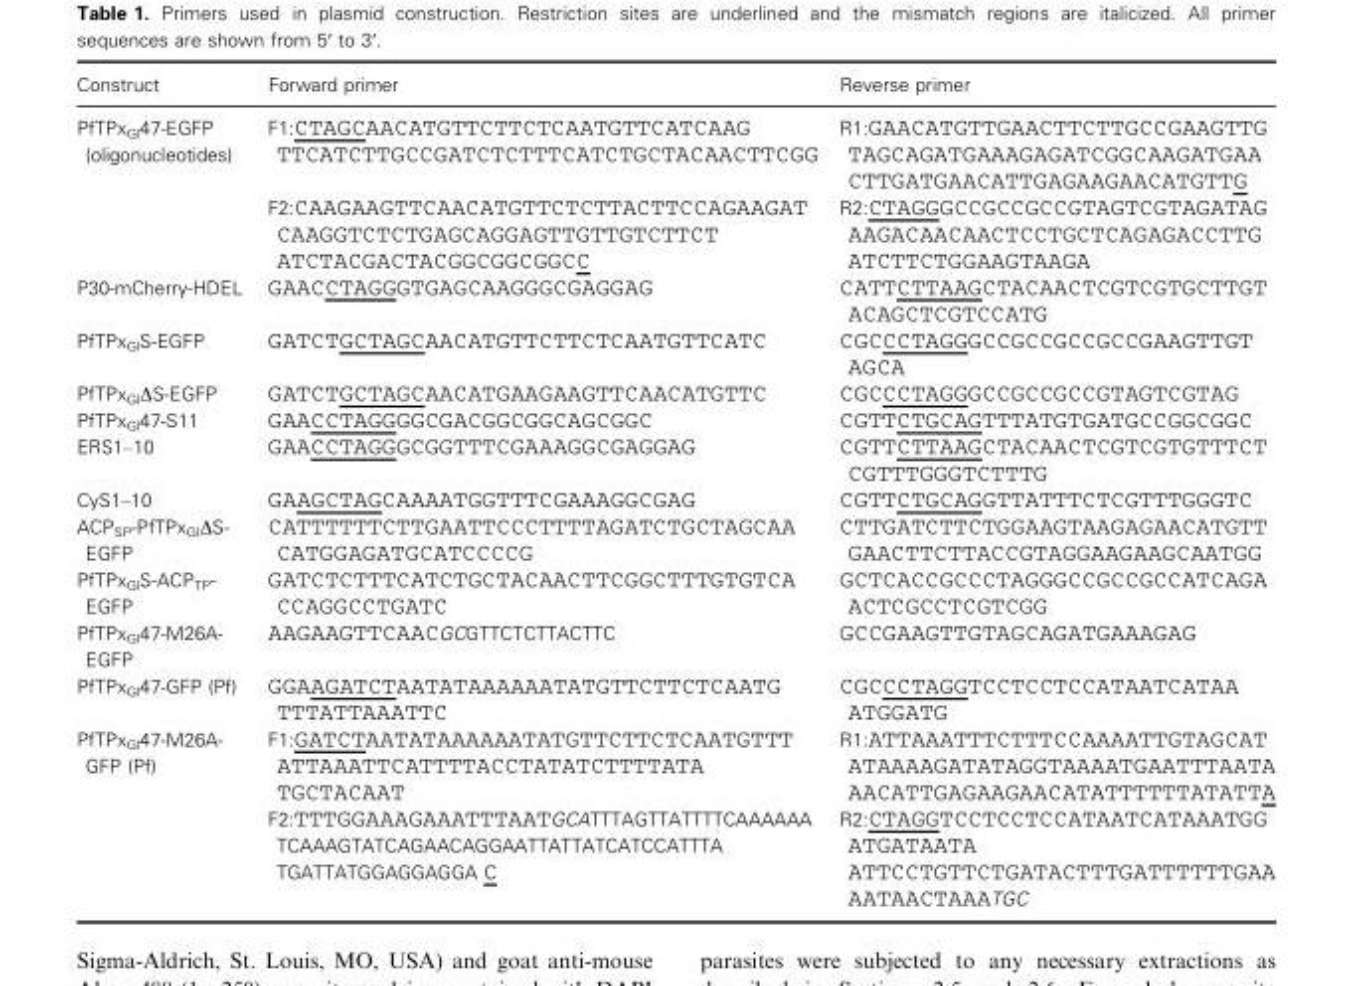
<table><thead><tr><td>Construct</td><td>Forward primer</td><td>Reverse primer</td></tr></thead><tbody><tr><td rowspan="2">PfTPx<sub>Gl</sub>47-EGFP (oligonucleotides)</td><td>F1:CTAGCAACATGTTCTTCTCAATGTTCATCAAG TTCATCTTGCCGATCTCTTTCATCTGCTACAACTTCGG</td><td>R1:GAACATGTTGAACTTCTTGCCGAAGTTG TAGCAGATGAAAGAGATCGGCAAGATGAA CTTGATGAACATTGAGAAGAACATGTTG</td></tr><tr><td>F2:CAAGAAGTTCAACATGTTCTCTTACTTCCAGAAGAT CAAGGTCTCTGAGCAGGAGTTGTTGTCTTCT ATCTACGACTACGGCGGCGGCC</td><td>R2:CTAGGGCCGCCGCCGTAGTCGTAGATAG AAGACAACAACTCCTGCTCAGAGACCTTG ATCTTCTGGAAGTAAGA</td></tr><tr><td>P30-mCherry-HDEL</td><td>GAACCTAGGGTGAGCAAGGGCGAGGAG</td><td>CATTCTTAAGCTACAACTCGTCGTGCTTGT ACAGCTCGTCCATG</td></tr><tr><td>PfTPx<sub>Gl</sub>S-EGFP</td><td>GATCTGCTAGCAACATGTTCTTCTCAATGTTCATC</td><td>CGCCCTAGGGCCGCCGCCGCCGAAGTTGT AGCA</td></tr><tr><td>PfTPx<sub>Gl</sub>ΔS-EGFP</td><td>GATCTGCTAGCAACATGAAGAAGTTCAACATGTTC</td><td>CGCCCTAGGGCCGCCGCCGTAGTCGTAG</td></tr><tr><td>PfTPx<sub>Gl</sub>47-S11</td><td>GAACCTAGGGGCGACGGCGGCAGCGGC</td><td>CGTTCTGCAGTTTATGTGATGCCGGCGGC</td></tr><tr><td>ERS1–10</td><td>GAACCTAGGGCGGTTTCGAAAGGCGAGGAG</td><td>CGTTCTTAAGCTACAACTCGTCGTGTTTCT CGTTTGGGTCTTTG</td></tr><tr><td>CyS1–10</td><td>GAAGCTAGCAAAATGGTTTCGAAAGGCGAG</td><td>CGTTCTGCAGGTTATTTCTCGTTTGGGTC</td></tr><tr><td>ACP<sub>SP</sub>-PfTPx<sub>Gl</sub>ΔS- EGFP</td><td>CATTTTTTCTTGAATTCCCTTTTAGATCTGCTAGCAA CATGGAGATGCATCCCCG</td><td>CTTGATCTTCTGGAAGTAAGAGAACATGTT GAACTTCTTACCGTAGGAAGAAGCAATGG</td></tr><tr><td>PfTPx<sub>Gl</sub>S-ACP<sub>TP</sub>- EGFP</td><td>GATCTCTTTCATCTGCTACAACTTCGGCTTTGTGTCA CCAGGCCTGATC</td><td>GCTCACCGCCCTAGGGCCGCCGCCATCAGA ACTCGCCTCGTCGG</td></tr><tr><td>PfTPx<sub>Gl</sub>47-M26A- EGFP</td><td>AAGAAGTTCAACGCGTTCTCTTACTTC</td><td>GCCGAAGTTGTAGCAGATGAAAGAG</td></tr><tr><td>PfTPx<sub>Gl</sub>47-GFP (Pf)</td><td>GGAAGATCTAATATAAAAAATATGTTCTTCTCAATG TTTATTAAATTC</td><td>CGCCCTAGGTCCTCCTCCATAATCATAA ATGGATG</td></tr><tr><td rowspan="2">PfTPx<sub>Gl</sub>47-M26A- GFP (Pf)</td><td>F1:GATCTAATATAAAAAATATGTTCTTCTCAATGTTT ATTAAATTCATTTTACCTATATCTTTTATA TGCTACAAT</td><td>R1:ATTAAATTTCTTTCCAAAATTGTAGCAT ATAAAAGATATAGGTAAAATGAATTTAATA AACATTGAGAAGAACATATTTTTTATATTA</td></tr><tr><td>F2:TTTGGAAAGAAATTTAATGCATTTAGTTATTTTCAAAAAA TCAAAGTATCAGAACAGGAATTATTATCATCCATTTA TGATTATGGAGGAGGA C</td><td>R2:CTAGGTCCTCCTCCATAATCATAAATGG ATGATAATA ATTCCTGTTCTGATACTTTGATTTTTTGAA AATAACTAAATGC</td></tr></tbody></table>